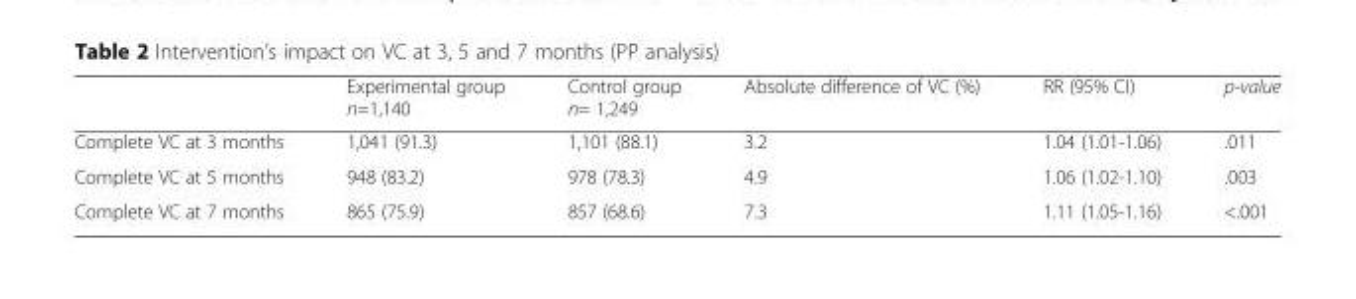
<table><thead><tr><td></td><td>Experimental group n=1,140</td><td>Control group n= 1,249</td><td>Absolute difference of VC (%)</td><td>RR (95% CI)</td><td>p-value</td></tr></thead><tbody><tr><td>Complete VC at 3 months</td><td>1,041 (91.3)</td><td>1,101 (88.1)</td><td>3.2</td><td>1.04 (1.01-1.06)</td><td>.011</td></tr><tr><td>Complete VC at 5 months</td><td>948 (83.2)</td><td>978 (78.3)</td><td>4.9</td><td>1.06 (1.02-1.10)</td><td>.003</td></tr><tr><td>Complete VC at 7 months</td><td>865 (75.9)</td><td>857 (68.6)</td><td>7.3</td><td>1.11 (1.05-1.16)</td><td>&lt;.001</td></tr></tbody></table>